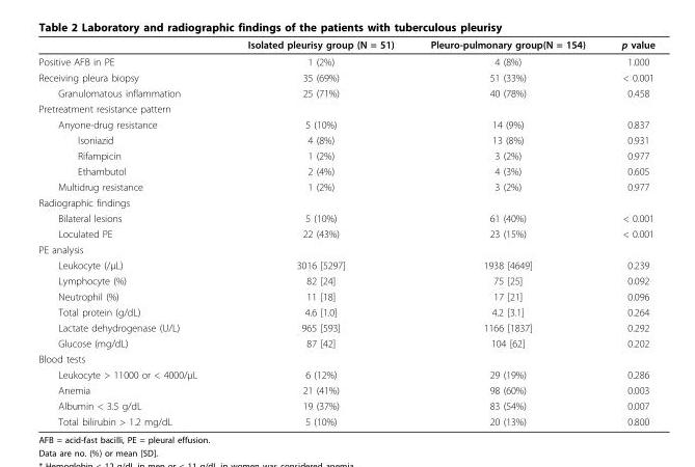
<table><thead><tr><td></td><td>Isolated pleurisy group (N = 51)</td><td>Pleuro-pulmonary group(N = 154)</td><td>p value</td></tr></thead><tbody><tr><td>Positive AFB in PE</td><td>1 (2%)</td><td>4 (8%)</td><td>1.000</td></tr><tr><td>Receiving pleura biopsy</td><td>35 (69%)</td><td>51 (33%)</td><td>&lt; 0.001</td></tr><tr><td>Granulomatous inflammation</td><td>25 (71%)</td><td>40 (78%)</td><td>0.458</td></tr><tr><td colspan="4">Pretreatment resistance pattern</td></tr><tr><td>Anyone-drug resistance</td><td>5 (10%)</td><td>14 (9%)</td><td>0.837</td></tr><tr><td>Isoniazid</td><td>4 (8%)</td><td>13 (8%)</td><td>0.931</td></tr><tr><td>Rifampicin</td><td>1 (2%)</td><td>3 (2%)</td><td>0.977</td></tr><tr><td>Ethambutol</td><td>2 (4%)</td><td>4 (3%)</td><td>0.605</td></tr><tr><td>Multidrug resistance</td><td>1 (2%)</td><td>3 (2%)</td><td>0.977</td></tr><tr><td colspan="4">Radiographic findings</td></tr><tr><td>Bilateral lesions</td><td>5 (10%)</td><td>61 (40%)</td><td>&lt; 0.001</td></tr><tr><td>Loculated PE</td><td>22 (43%)</td><td>23 (15%)</td><td>&lt; 0.001</td></tr><tr><td colspan="4">PE analysis</td></tr><tr><td>Leukocyte (/μL)</td><td>3016 [5297]</td><td>1938 [4649]</td><td>0.239</td></tr><tr><td>Lymphocyte (%)</td><td>82 [24]</td><td>75 [25]</td><td>0.092</td></tr><tr><td>Neutrophil (%)</td><td>11 [18]</td><td>17 [21]</td><td>0.096</td></tr><tr><td>Total protein (g/dL)</td><td>4.6 [1.0]</td><td>4.2 [3.1]</td><td>0.264</td></tr><tr><td>Lactate dehydrogenase (U/L)</td><td>965 [593]</td><td>1166 [1837]</td><td>0.292</td></tr><tr><td>Glucose (mg/dL)</td><td>87 [42]</td><td>104 [62]</td><td>0.202</td></tr><tr><td colspan="4">Blood tests</td></tr><tr><td>Leukocyte &gt; 11000 or &lt; 4000/μL</td><td>6 (12%)</td><td>29 (19%)</td><td>0.286</td></tr><tr><td>Anemia</td><td>21 (41%)</td><td>98 (60%)</td><td>0.003</td></tr><tr><td>Albumin &lt; 3.5 g/dL</td><td>19 (37%)</td><td>83 (54%)</td><td>0.007</td></tr><tr><td>Total bilirubin &gt; 1.2 mg/dL</td><td>5 (10%)</td><td>20 (13%)</td><td>0.800</td></tr></tbody></table>